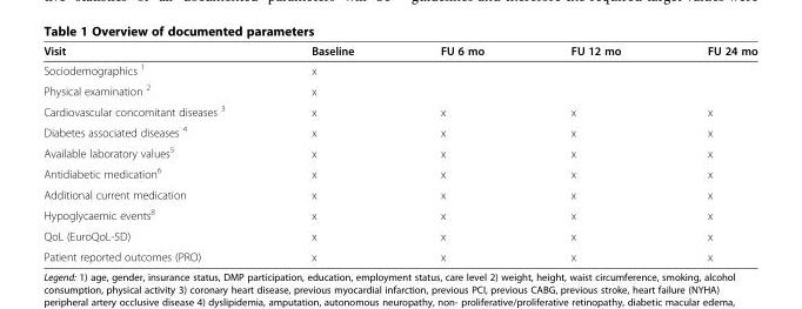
<table><thead><tr><td>Visit</td><td>Baseline</td><td>FU 6 mo</td><td>FU 12 mo</td><td>FU 24 mo</td></tr></thead><tbody><tr><td>Sociodemographics <sup>1</sup></td><td>x</td><td></td><td></td><td></td></tr><tr><td>Physical examination <sup>2</sup></td><td>x</td><td></td><td></td><td></td></tr><tr><td>Cardiovascular concomitant diseases <sup>3</sup></td><td>x</td><td>x</td><td>x</td><td>x</td></tr><tr><td>Diabetes associated diseases <sup>4</sup></td><td>x</td><td>x</td><td>x</td><td>x</td></tr><tr><td>Available laboratory values<sup>5</sup></td><td>x</td><td>x</td><td>x</td><td>x</td></tr><tr><td>Antidiabetic medication<sup>6</sup></td><td>x</td><td>x</td><td>x</td><td>x</td></tr><tr><td>Additional current medication</td><td>x</td><td>x</td><td>x</td><td>x</td></tr><tr><td>Hypoglycaemic events<sup>8</sup></td><td>x</td><td>x</td><td>x</td><td>x</td></tr><tr><td>QoL (EuroQoL-5D)</td><td>x</td><td>x</td><td>x</td><td>x</td></tr><tr><td>Patient reported outcomes (PRO)</td><td>x</td><td>x</td><td>x</td><td>x</td></tr></tbody></table>